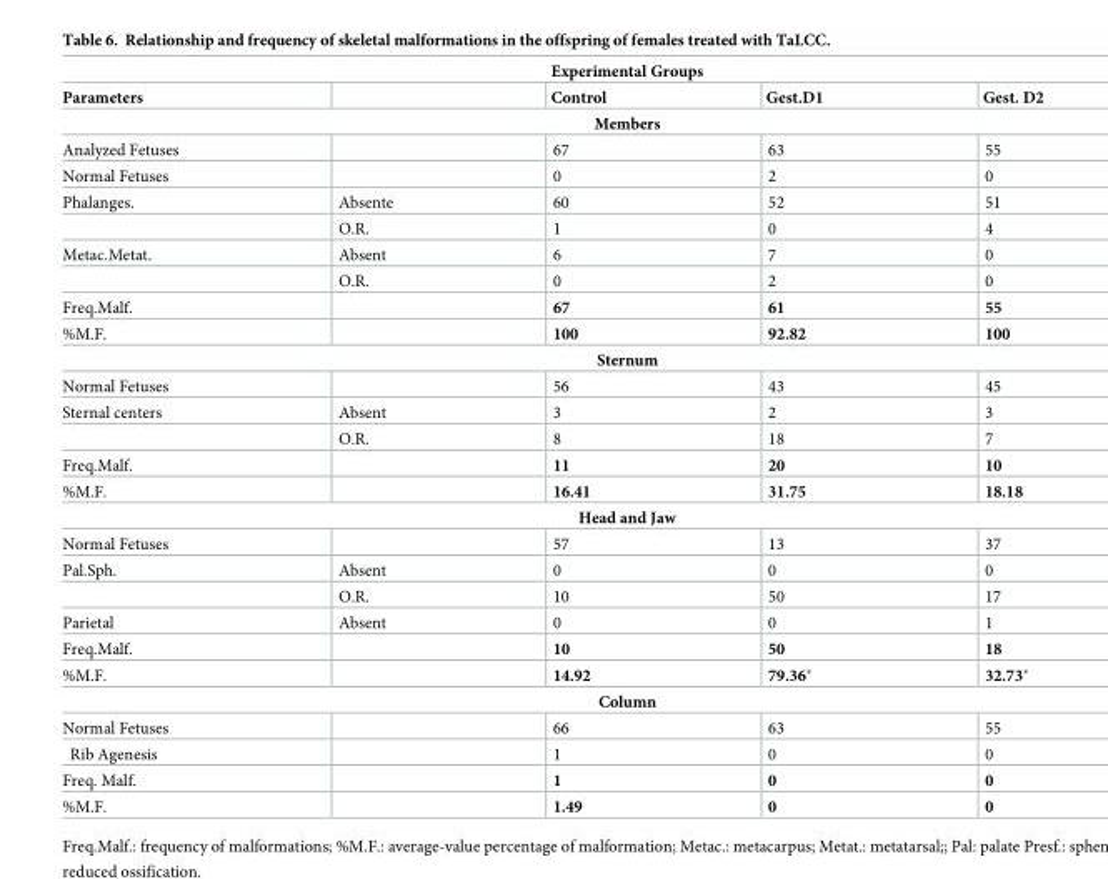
<table><thead><tr><td colspan="5">Experimental Groups</td></tr><tr><td>Parameters</td><td></td><td>Control</td><td>Gest.D1</td><td>Gest. D2</td></tr></thead><tbody><tr><td colspan="5">Members</td></tr><tr><td>Analyzed Fetuses</td><td></td><td>67</td><td>63</td><td>55</td></tr><tr><td>Normal Fetuses</td><td></td><td>0</td><td>2</td><td>0</td></tr><tr><td rowspan="2">Phalanges.</td><td>Absente</td><td>60</td><td>52</td><td>51</td></tr><tr><td>O.R.</td><td>1</td><td>0</td><td>4</td></tr><tr><td rowspan="2">Metac.Metat.</td><td>Absent</td><td>6</td><td>7</td><td>0</td></tr><tr><td>O.R.</td><td>0</td><td>2</td><td>0</td></tr><tr><td>Freq.Malf.</td><td></td><td>67</td><td>61</td><td>55</td></tr><tr><td>%M.F.</td><td></td><td>100</td><td>92.82</td><td>100</td></tr><tr><td colspan="5">Sternum</td></tr><tr><td>Normal Fetuses</td><td></td><td>56</td><td>43</td><td>45</td></tr><tr><td rowspan="2">Sternal centers</td><td>Absent</td><td>3</td><td>2</td><td>3</td></tr><tr><td>O.R.</td><td>8</td><td>18</td><td>7</td></tr><tr><td>Freq.Malf.</td><td></td><td>11</td><td>20</td><td>10</td></tr><tr><td>%M.F.</td><td></td><td>16.41</td><td>31.75</td><td>18.18</td></tr><tr><td colspan="5">Head and Jaw</td></tr><tr><td>Normal Fetuses</td><td></td><td>57</td><td>13</td><td>37</td></tr><tr><td rowspan="2">Pal.Sph.</td><td>Absent</td><td>0</td><td>0</td><td>0</td></tr><tr><td>O.R.</td><td>10</td><td>50</td><td>17</td></tr><tr><td>Parietal</td><td>Absent</td><td>0</td><td>0</td><td>1</td></tr><tr><td>Freq.Malf.</td><td></td><td>10</td><td>50</td><td>18</td></tr><tr><td>%M.F.</td><td></td><td>14.92</td><td>79.36*</td><td>32.73*</td></tr><tr><td colspan="5">Column</td></tr><tr><td>Normal Fetuses</td><td></td><td>66</td><td>63</td><td>55</td></tr><tr><td>Rib Agenesis</td><td></td><td>1</td><td>0</td><td>0</td></tr><tr><td>Freq. Malf.</td><td></td><td>1</td><td>0</td><td>0</td></tr><tr><td>%M.F.</td><td></td><td>1.49</td><td>0</td><td>0</td></tr></tbody></table>